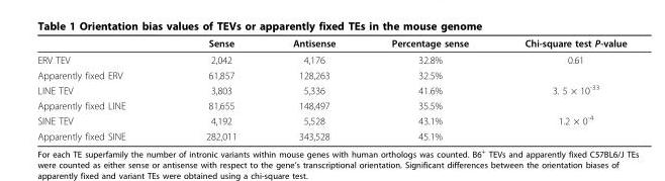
<table><thead><tr><td></td><td>Sense</td><td>Antisense</td><td>Percentage sense</td><td>Chi-square test P-value</td></tr></thead><tbody><tr><td>ERV TEV</td><td>2,042</td><td>4,176</td><td>32.8%</td><td>0.61</td></tr><tr><td>Apparently fixed ERV</td><td>61,857</td><td>128,263</td><td>32.5%</td><td></td></tr><tr><td>LINE TEV</td><td>3,803</td><td>5,336</td><td>41.6%</td><td>3. 5 × 10<sup>-33</sup></td></tr><tr><td>Apparently fixed LINE</td><td>81,655</td><td>148,497</td><td>35.5%</td><td></td></tr><tr><td>SINE TEV</td><td>4,192</td><td>5,528</td><td>43.1%</td><td>1.2 × 0<sup>-4</sup></td></tr><tr><td>Apparently fixed SINE</td><td>282,011</td><td>343,528</td><td>45.1%</td><td></td></tr></tbody></table>